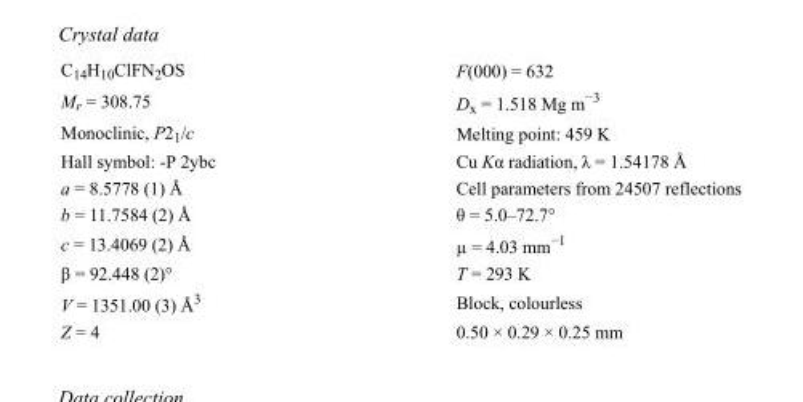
<table><tbody><tr><td>C<sub>14</sub>H<sub>10</sub>ClFN<sub>2</sub>OS</td><td>F(000) = 632</td></tr><tr><td>M<sub>r</sub> = 308.75</td><td>D<sub>x</sub> = 1.518 Mg m<sup>−3</sup></td></tr><tr><td>Monoclinic, P2<sub>1</sub>/c</td><td>Melting point: 459 K</td></tr><tr><td>Hall symbol: -P 2ybc</td><td>Cu Kα radiation, λ = 1.54178 Å</td></tr><tr><td>a = 8.5778 (1) Å</td><td>Cell parameters from 24507 reflections</td></tr><tr><td>b = 11.7584 (2) Å</td><td>θ = 5.0–72.7°</td></tr><tr><td>c = 13.4069 (2) Å</td><td>µ = 4.03 mm<sup>−1</sup></td></tr><tr><td>β = 92.448 (2)°</td><td>T = 293 K</td></tr><tr><td>V = 1351.00 (3) Å<sup>3</sup></td><td>Block, colourless</td></tr><tr><td>Z = 4</td><td>0.50 × 0.29 × 0.25 mm</td></tr></tbody></table>